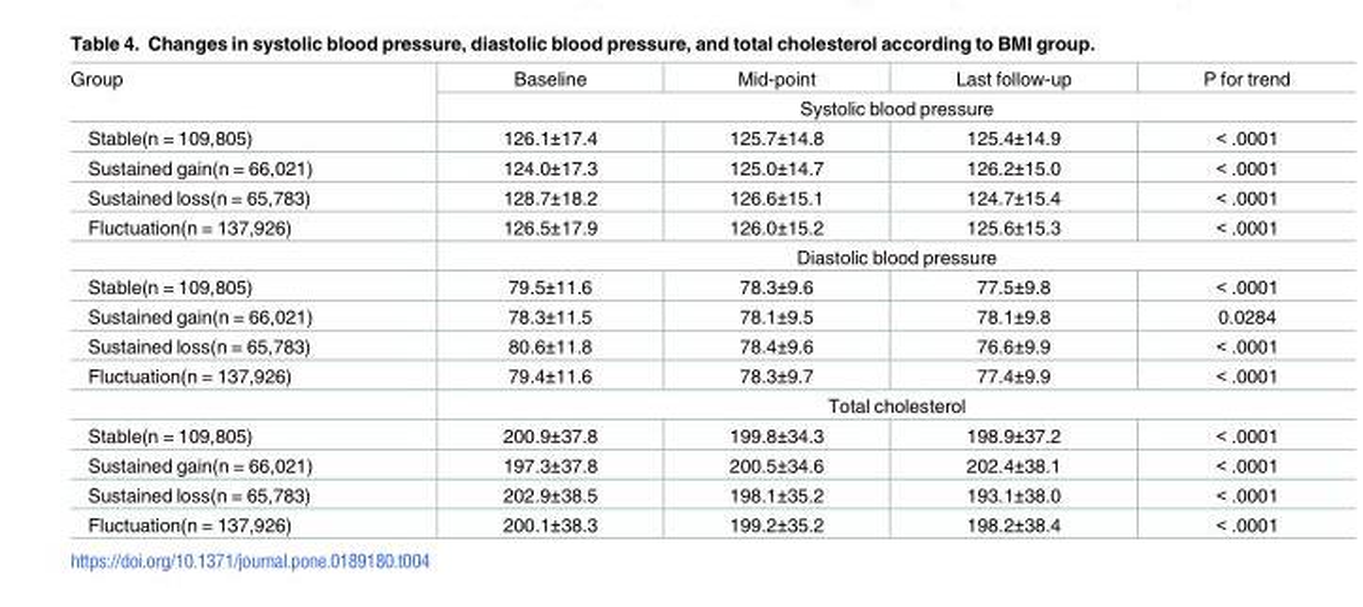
<table><tbody><tr><td rowspan="2">Group</td><td>Baseline</td><td>Mid-point</td><td>Last follow-up</td><td>P for trend</td></tr><tr><td colspan="4">Systolic blood pressure</td></tr><tr><td>Stable(n = 109,805)</td><td>126.1±17.4</td><td>125.7±14.8</td><td>125.4±14.9</td><td>&lt; .0001</td></tr><tr><td>Sustained gain(n = 66,021)</td><td>124.0±17.3</td><td>125.0±14.7</td><td>126.2±15.0</td><td>&lt; .0001</td></tr><tr><td>Sustained loss(n = 65,783)</td><td>128.7±18.2</td><td>126.6±15.1</td><td>124.7±15.4</td><td>&lt; .0001</td></tr><tr><td rowspan="2">Fluctuation(n = 137,926)</td><td>126.5±17.9</td><td>126.0±15.2</td><td>125.6±15.3</td><td>&lt; .0001</td></tr><tr><td colspan="4">Diastolic blood pressure</td></tr><tr><td>Stable(n = 109,805)</td><td>79.5±11.6</td><td>78.3±9.6</td><td>77.5±9.8</td><td>&lt; .0001</td></tr><tr><td>Sustained gain(n = 66,021)</td><td>78.3±11.5</td><td>78.1±9.5</td><td>78.1±9.8</td><td>0.0284</td></tr><tr><td>Sustained loss(n = 65,783)</td><td>80.6±11.8</td><td>78.4±9.6</td><td>76.6±9.9</td><td>&lt; .0001</td></tr><tr><td rowspan="2">Fluctuation(n = 137,926)</td><td>79.4±11.6</td><td>78.3±9.7</td><td>77.4±9.9</td><td>&lt; .0001</td></tr><tr><td colspan="4">Total cholesterol</td></tr><tr><td>Stable(n = 109,805)</td><td>200.9±37.8</td><td>199.8±34.3</td><td>198.9±37.2</td><td>&lt; .0001</td></tr><tr><td>Sustained gain(n = 66,021)</td><td>197.3±37.8</td><td>200.5±34.6</td><td>202.4±38.1</td><td>&lt; .0001</td></tr><tr><td>Sustained loss(n = 65,783)</td><td>202.9±38.5</td><td>198.1±35.2</td><td>193.1±38.0</td><td>&lt; .0001</td></tr><tr><td>Fluctuation(n = 137,926)</td><td>200.1±38.3</td><td>199.2±35.2</td><td>198.2±38.4</td><td>&lt; .0001</td></tr></tbody></table>